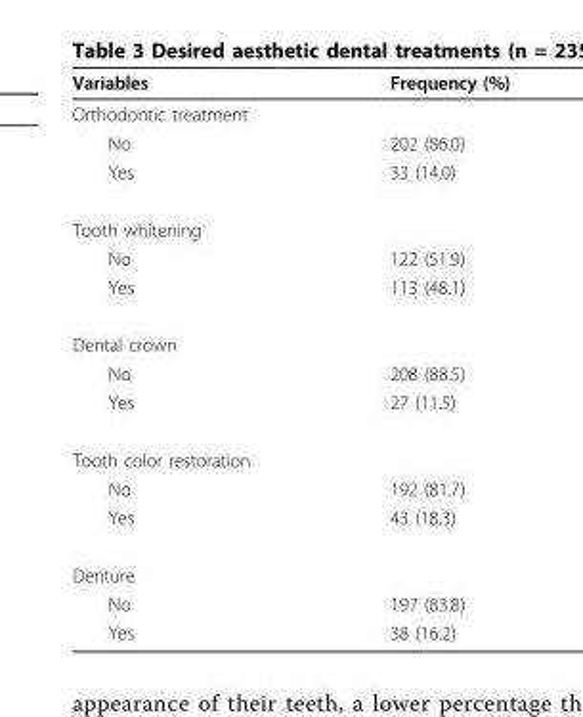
<table><thead><tr><td>Variables</td><td>Frequency (%)</td></tr></thead><tbody><tr><td colspan="2">Orthodontic treatment</td></tr><tr><td>No</td><td>202 (86.0)</td></tr><tr><td>Yes</td><td>33 (14.0)</td></tr><tr><td colspan="2">Tooth whitening</td></tr><tr><td>No</td><td>122 (51.9)</td></tr><tr><td>Yes</td><td>113 (48.1)</td></tr><tr><td colspan="2">Dental crown</td></tr><tr><td>No</td><td>208 (88.5)</td></tr><tr><td>Yes</td><td>27 (11.5)</td></tr><tr><td colspan="2">Tooth color restoration</td></tr><tr><td>No</td><td>192 (81.7)</td></tr><tr><td>Yes</td><td>43 (18.3)</td></tr><tr><td colspan="2">Denture</td></tr><tr><td>No</td><td>197 (83.8)</td></tr><tr><td>Yes</td><td>38 (16.2)</td></tr></tbody></table>